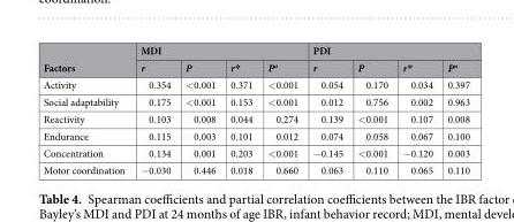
<table><thead><tr><td rowspan="2">Factors</td><td colspan="4">MDI</td><td colspan="4">PDI</td></tr><tr><td>r</td><td>P</td><td>r*</td><td>P<sup>a</sup></td><td>r</td><td>P</td><td>r*</td><td>P<sup>a</sup></td></tr></thead><tbody><tr><td>Activity</td><td>0.354</td><td>&lt;0.001</td><td>0.371</td><td>&lt;0.001</td><td>0.054</td><td>0.170</td><td>0.034</td><td>0.397</td></tr><tr><td>Social adaptability</td><td>0.175</td><td>&lt;0.001</td><td>0.153</td><td>&lt;0.001</td><td>0.012</td><td>0.756</td><td>0.002</td><td>0.963</td></tr><tr><td>Reactivity</td><td>0.103</td><td>0.008</td><td>0.044</td><td>0.274</td><td>0.139</td><td>&lt;0.001</td><td>0.107</td><td>0.008</td></tr><tr><td>Endurance</td><td>0.115</td><td>0.003</td><td>0.101</td><td>0.012</td><td>0.074</td><td>0.058</td><td>0.067</td><td>0.100</td></tr><tr><td>Concentration</td><td>0.134</td><td>0.001</td><td>0.203</td><td>&lt;0.001</td><td>−0.145</td><td>&lt;0.001</td><td>−0.120</td><td>0.003</td></tr><tr><td>Motor coordination</td><td>−0.030</td><td>0.446</td><td>0.018</td><td>0.660</td><td>0.063</td><td>0.110</td><td>0.065</td><td>0.110</td></tr></tbody></table>